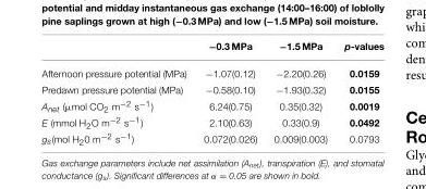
<table><thead><tr><td></td><td>−0.3 MPa</td><td>−1.5 MPa</td><td>p-values</td></tr></thead><tbody><tr><td>Afternoon pressure potential (MPa)</td><td>−1.07(0.12)</td><td>−2.20(0.26)</td><td>0.0159</td></tr><tr><td>Predawn pressure potential (MPa)</td><td>−0.58(0.10)</td><td>−1.93(0.32)</td><td>0.0155</td></tr><tr><td>A<sub>net</sub> (µmol CO<sub>2</sub> m<sup>−2</sup> s<sup>−1</sup>)</td><td>6.24(0.75)</td><td>0.35(0.32)</td><td>0.0019</td></tr><tr><td>E (mmol H<sub>2</sub>O m<sup>−2</sup> s<sup>−1</sup>)</td><td>2.10(0.63)</td><td>0.33(0.9)</td><td>0.0492</td></tr><tr><td>gs(mol H<sub>2</sub>0 m<sup>−2</sup> s<sup>−1</sup>)</td><td>0.072(0.026)</td><td>0.009(0.003)</td><td>0.0793</td></tr></tbody></table>